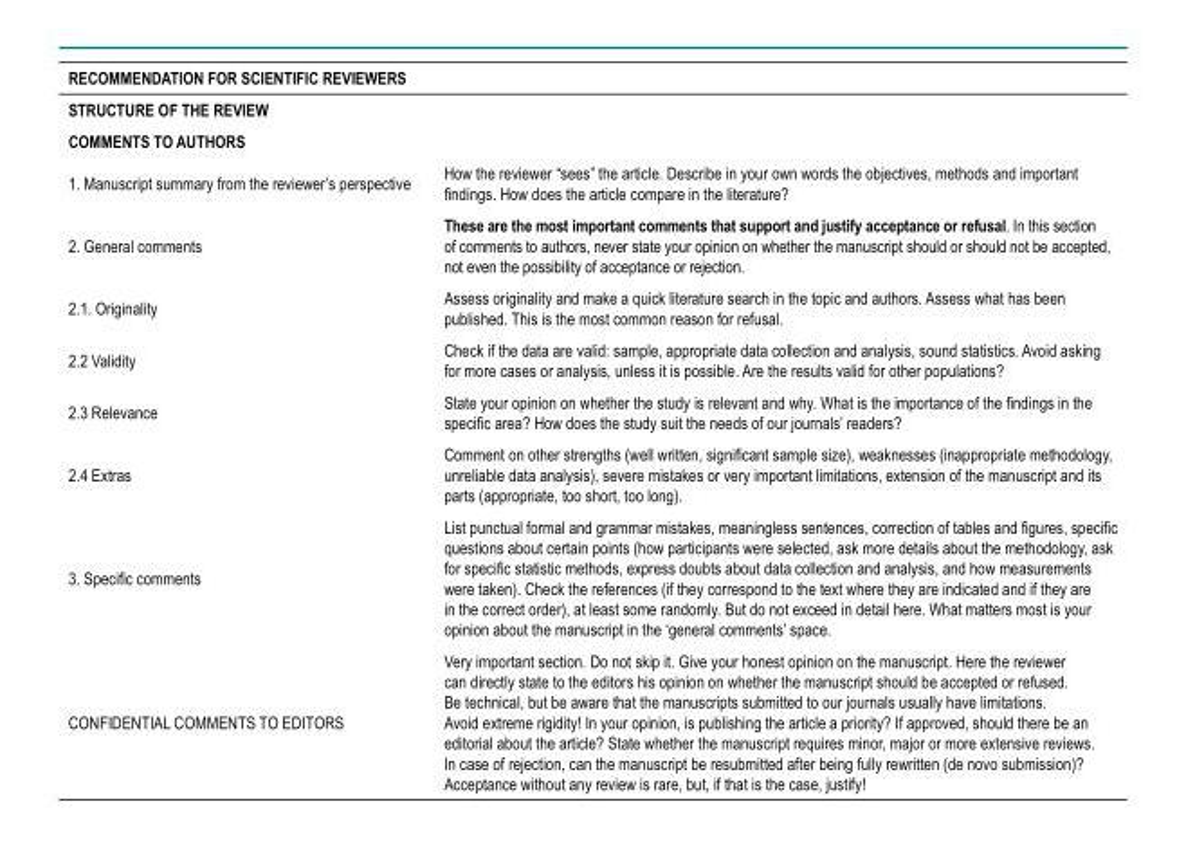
<table><thead><tr><td colspan="2">RECOMMENDATION FOR SCIENTIFIC REVIEWERS</td></tr><tr><td>STRUCTURE OF THE REVIEW</td><td></td></tr></thead><tbody><tr><td colspan="2">COMMENTS TO AUTHORS</td></tr><tr><td>1. Manuscript summary from the reviewer’s perspective</td><td>How the reviewer “sees” the article. Describe in your own words the objectives, methods and important findings. How does the article compare in the literature?</td></tr><tr><td>2. General comments</td><td>These are the most important comments that support and justify acceptance or refusal. In this section of comments to authors, never state your opinion on whether the manuscript should or should not be accepted, not even the possibility of acceptance or rejection.</td></tr><tr><td>2.1. Originality</td><td>Assess originality and make a quick literature search in the topic and authors. Assess what has been published. This is the most common reason for refusal.</td></tr><tr><td>2.2 Validity</td><td>Check if the data are valid: sample, appropriate data collection and analysis, sound statistics. Avoid asking for more cases or analysis, unless it is possible. Are the results valid for other populations?</td></tr><tr><td>2.3 Relevance</td><td>State your opinion on whether the study is relevant and why. What is the importance of the findings in the specific area? How does the study suit the needs of our journals’ readers?</td></tr><tr><td>2.4 Extras</td><td>Comment on other strengths (well written, significant sample size), weaknesses (inappropriate methodology, unreliable data analysis), severe mistakes or very important limitations, extension of the manuscript and its parts (appropriate, too short, too long).</td></tr><tr><td>3. Specific comments</td><td>List punctual formal and grammar mistakes, meaningless sentences, correction of tables and figures, specific questions about certain points (how participants were selected, ask more details about the methodology, ask for specific statistic methods, express doubts about data collection and analysis, and how measurements were taken). Check the references (if they correspond to the text where they are indicated and if they are in the correct order), at least some randomly. But do not exceed in detail here. What matters most is your opinion about the manuscript in the ‘general comments’ space.</td></tr><tr><td>CONFIDENTIAL COMMENTS TO EDITORS</td><td>Very important section. Do not skip it. Give your honest opinion on the manuscript. Here the reviewer can directly state to the editors his opinion on whether the manuscript should be accepted or refused. Be technical, but be aware that the manuscripts submitted to our journals usually have limitations. Avoid extreme rigidity! In your opinion, is publishing the article a priority? If approved, should there be an editorial about the article? State whether the manuscript requires minor, major or more extensive reviews. In case of rejection, can the manuscript be resubmitted after being fully rewritten (de novo submission)? Acceptance without any review is rare, but, if that is the case, justify!</td></tr></tbody></table>